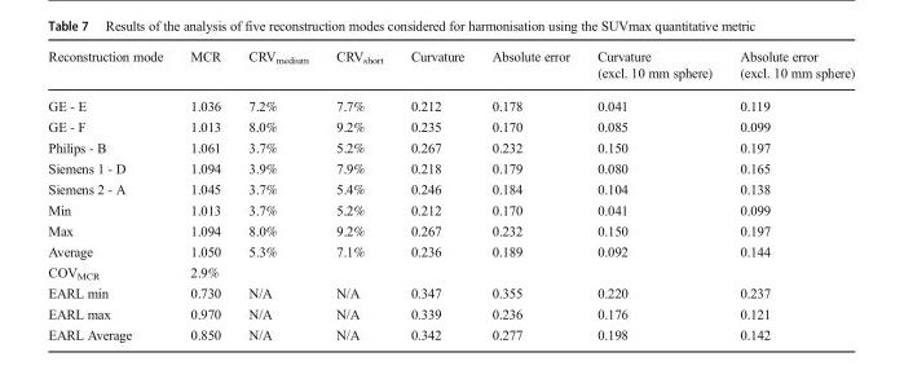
<table><thead><tr><td>Reconstruction mode</td><td>MCR</td><td>CRV<sub>medium</sub></td><td>CRV<sub>short</sub></td><td>Curvature</td><td>Absolute error</td><td>Curvature (excl. 10 mm sphere)</td><td>Absolute error (excl. 10 mm sphere)</td></tr></thead><tbody><tr><td>GE - E</td><td>1.036</td><td>7.2%</td><td>7.7%</td><td>0.212</td><td>0.178</td><td>0.041</td><td>0.119</td></tr><tr><td>GE - F</td><td>1.013</td><td>8.0%</td><td>9.2%</td><td>0.235</td><td>0.170</td><td>0.085</td><td>0.099</td></tr><tr><td>Philips - B</td><td>1.061</td><td>3.7%</td><td>5.2%</td><td>0.267</td><td>0.232</td><td>0.150</td><td>0.197</td></tr><tr><td>Siemens 1 - D</td><td>1.094</td><td>3.9%</td><td>7.9%</td><td>0.218</td><td>0.179</td><td>0.080</td><td>0.165</td></tr><tr><td>Siemens 2 - A</td><td>1.045</td><td>3.7%</td><td>5.4%</td><td>0.246</td><td>0.184</td><td>0.104</td><td>0.138</td></tr><tr><td>Min</td><td>1.013</td><td>3.7%</td><td>5.2%</td><td>0.212</td><td>0.170</td><td>0.041</td><td>0.099</td></tr><tr><td>Max</td><td>1.094</td><td>8.0%</td><td>9.2%</td><td>0.267</td><td>0.232</td><td>0.150</td><td>0.197</td></tr><tr><td>Average</td><td>1.050</td><td>5.3%</td><td>7.1%</td><td>0.236</td><td>0.189</td><td>0.092</td><td>0.144</td></tr><tr><td>COV<sub>MCR</sub></td><td>2.9%</td><td></td><td></td><td></td><td></td><td></td><td></td></tr><tr><td>EARL min</td><td>0.730</td><td>N/A</td><td>N/A</td><td>0.347</td><td>0.355</td><td>0.220</td><td>0.237</td></tr><tr><td>EARL max</td><td>0.970</td><td>N/A</td><td>N/A</td><td>0.339</td><td>0.236</td><td>0.176</td><td>0.121</td></tr><tr><td>EARL Average</td><td>0.850</td><td>N/A</td><td>N/A</td><td>0.342</td><td>0.277</td><td>0.198</td><td>0.142</td></tr></tbody></table>